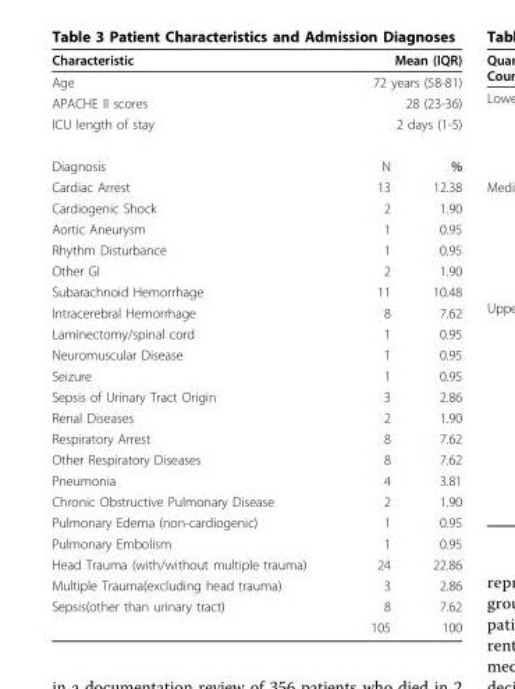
<table><thead><tr><td>Characteristic</td><td colspan="2">Mean (IQR)</td></tr></thead><tbody><tr><td>Age</td><td colspan="2">72 years (58-81)</td></tr><tr><td>APACHE II scores</td><td colspan="2">28 (23-36)</td></tr><tr><td>ICU length of stay</td><td colspan="2">2 days (1-5)</td></tr><tr><td>Diagnosis</td><td>N</td><td>%</td></tr><tr><td>Cardiac Arrest</td><td>13</td><td>12.38</td></tr><tr><td>Cardiogenic Shock</td><td>2</td><td>1.90</td></tr><tr><td>Aortic Aneurysm</td><td>1</td><td>0.95</td></tr><tr><td>Rhythm Disturbance</td><td>1</td><td>0.95</td></tr><tr><td>Other GI</td><td>2</td><td>1.90</td></tr><tr><td>Subarachnoid Hemorrhage</td><td>11</td><td>10.48</td></tr><tr><td>Intracerebral Hemorrhage</td><td>8</td><td>7.62</td></tr><tr><td>Laminectomy/spinal cord</td><td>1</td><td>0.95</td></tr><tr><td>Neuromuscular Disease</td><td>1</td><td>0.95</td></tr><tr><td>Seizure</td><td>1</td><td>0.95</td></tr><tr><td>Sepsis of Urinary Tract Origin</td><td>3</td><td>2.86</td></tr><tr><td>Renal Diseases</td><td>2</td><td>1.90</td></tr><tr><td>Respiratory Arrest</td><td>8</td><td>7.62</td></tr><tr><td>Other Respiratory Diseases</td><td>8</td><td>7.62</td></tr><tr><td>Pneumonia</td><td>4</td><td>3.81</td></tr><tr><td>Chronic Obstructive Pulmonary Disease</td><td>2</td><td>1.90</td></tr><tr><td>Pulmonary Edema (non-cardiogenic)</td><td>1</td><td>0.95</td></tr><tr><td>Pulmonary Embolism</td><td>1</td><td>0.95</td></tr><tr><td>Head Trauma (with/without multiple trauma)</td><td>24</td><td>22.86</td></tr><tr><td>Multiple Trauma(excluding head trauma)</td><td>3</td><td>2.86</td></tr><tr><td rowspan="2">Sepsis(other than urinary tract)</td><td>8</td><td>7.62</td></tr><tr><td>105</td><td>100</td></tr></tbody></table>